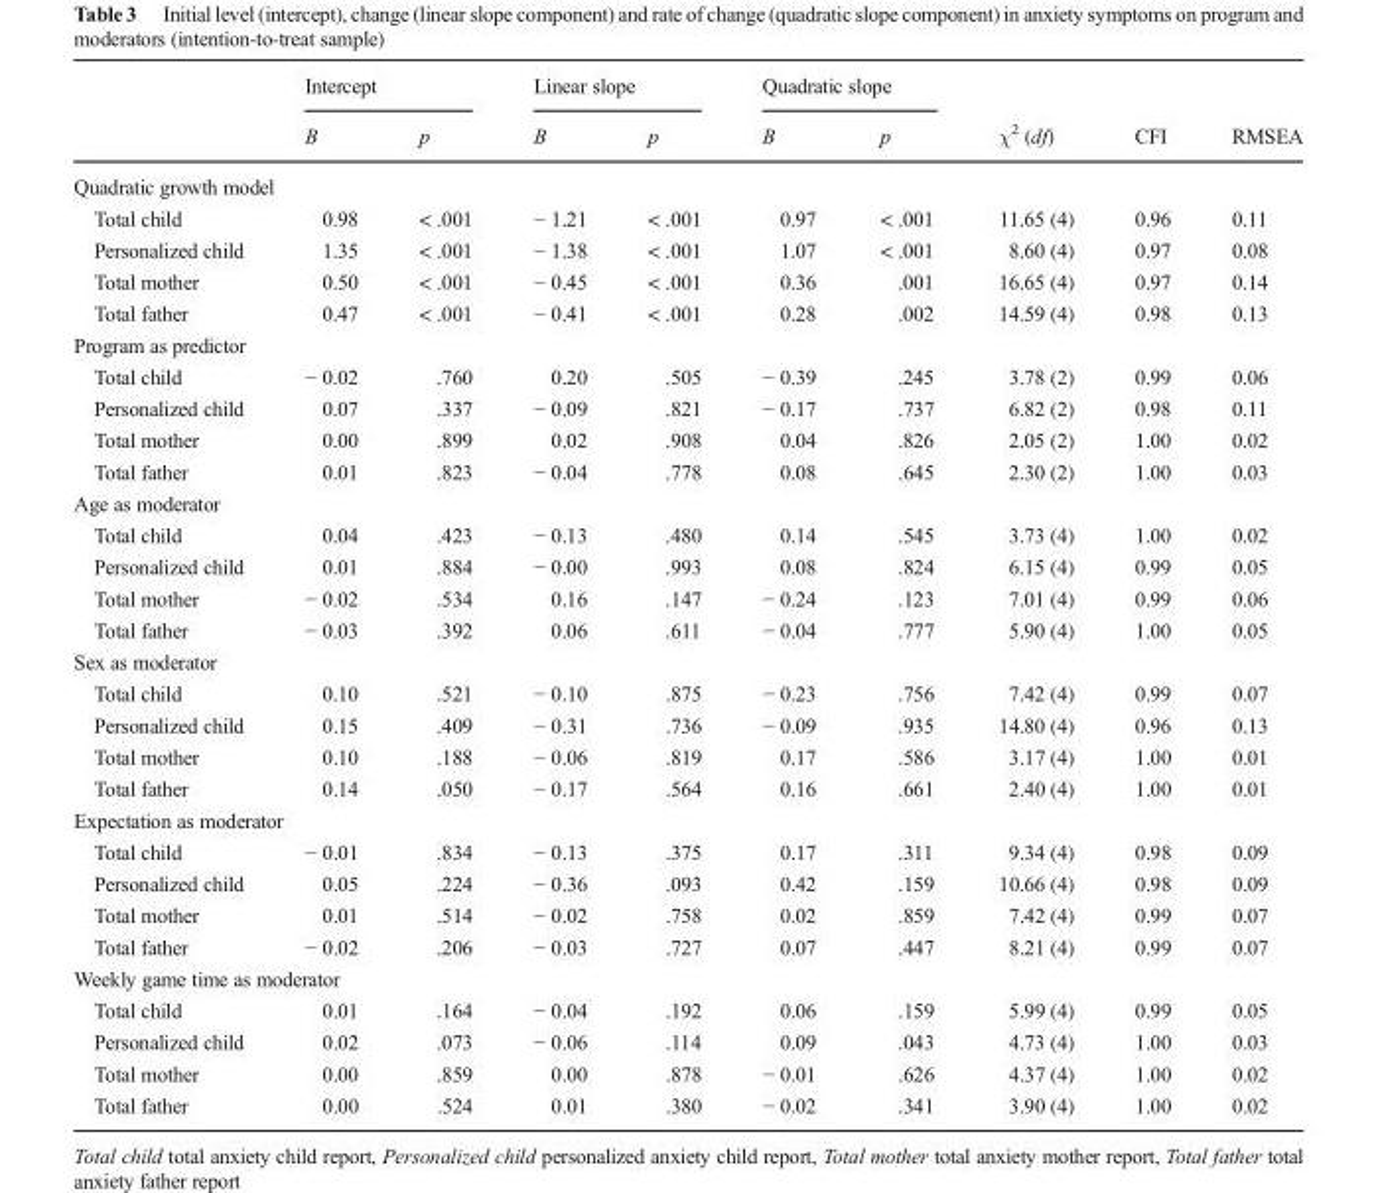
<table><thead><tr><td rowspan="2"></td><td colspan="2">Intercept</td><td colspan="2">Linear slope</td><td colspan="2">Quadratic slope</td><td rowspan="2">χ<sup>2</sup> (df)</td><td rowspan="2">CFI</td><td rowspan="2">RMSEA</td></tr><tr><td>B</td><td>p</td><td>B</td><td>p</td><td>B</td><td>p</td></tr></thead><tbody><tr><td colspan="10">Quadratic growth model</td></tr><tr><td>Total child</td><td>0.98</td><td>&lt; .001</td><td>− 1.21</td><td>&lt; .001</td><td>0.97</td><td>&lt; .001</td><td>11.65 (4)</td><td>0.96</td><td>0.11</td></tr><tr><td>Personalized child</td><td>1.35</td><td>&lt; .001</td><td>− 1.38</td><td>&lt; .001</td><td>1.07</td><td>&lt; .001</td><td>8.60 (4)</td><td>0.97</td><td>0.08</td></tr><tr><td>Total mother</td><td>0.50</td><td>&lt; .001</td><td>− 0.45</td><td>&lt; .001</td><td>0.36</td><td>.001</td><td>16.65 (4)</td><td>0.97</td><td>0.14</td></tr><tr><td>Total father</td><td>0.47</td><td>&lt; .001</td><td>− 0.41</td><td>&lt; .001</td><td>0.28</td><td>.002</td><td>14.59 (4)</td><td>0.98</td><td>0.13</td></tr><tr><td colspan="10">Program as predictor</td></tr><tr><td>Total child</td><td>− 0.02</td><td>.760</td><td>0.20</td><td>.505</td><td>− 0.39</td><td>.245</td><td>3.78 (2)</td><td>0.99</td><td>0.06</td></tr><tr><td>Personalized child</td><td>0.07</td><td>.337</td><td>− 0.09</td><td>.821</td><td>− 0.17</td><td>.737</td><td>6.82 (2)</td><td>0.98</td><td>0.11</td></tr><tr><td>Total mother</td><td>0.00</td><td>.899</td><td>0.02</td><td>.908</td><td>0.04</td><td>.826</td><td>2.05 (2)</td><td>1.00</td><td>0.02</td></tr><tr><td>Total father</td><td>0.01</td><td>.823</td><td>− 0.04</td><td>.778</td><td>0.08</td><td>.645</td><td>2.30 (2)</td><td>1.00</td><td>0.03</td></tr><tr><td colspan="10">Age as moderator</td></tr><tr><td>Total child</td><td>0.04</td><td>.423</td><td>− 0.13</td><td>.480</td><td>0.14</td><td>.545</td><td>3.73 (4)</td><td>1.00</td><td>0.02</td></tr><tr><td>Personalized child</td><td>0.01</td><td>.884</td><td>− 0.00</td><td>.993</td><td>0.08</td><td>.824</td><td>6.15 (4)</td><td>0.99</td><td>0.05</td></tr><tr><td>Total mother</td><td>− 0.02</td><td>.534</td><td>0.16</td><td>.147</td><td>− 0.24</td><td>.123</td><td>7.01 (4)</td><td>0.99</td><td>0.06</td></tr><tr><td>Total father</td><td>− 0.03</td><td>.392</td><td>0.06</td><td>.611</td><td>− 0.04</td><td>.777</td><td>5.90 (4)</td><td>1.00</td><td>0.05</td></tr><tr><td colspan="10">Sex as moderator</td></tr><tr><td>Total child</td><td>0.10</td><td>.521</td><td>− 0.10</td><td>.875</td><td>− 0.23</td><td>.756</td><td>7.42 (4)</td><td>0.99</td><td>0.07</td></tr><tr><td>Personalized child</td><td>0.15</td><td>.409</td><td>− 0.31</td><td>.736</td><td>− 0.09</td><td>.935</td><td>14.80 (4)</td><td>0.96</td><td>0.13</td></tr><tr><td>Total mother</td><td>0.10</td><td>.188</td><td>− 0.06</td><td>.819</td><td>0.17</td><td>.586</td><td>3.17 (4)</td><td>1.00</td><td>0.01</td></tr><tr><td>Total father</td><td>0.14</td><td>.050</td><td>− 0.17</td><td>.564</td><td>0.16</td><td>.661</td><td>2.40 (4)</td><td>1.00</td><td>0.01</td></tr><tr><td colspan="10">Expectation as moderator</td></tr><tr><td>Total child</td><td>− 0.01</td><td>.834</td><td>− 0.13</td><td>.375</td><td>0.17</td><td>.311</td><td>9.34 (4)</td><td>0.98</td><td>0.09</td></tr><tr><td>Personalized child</td><td>0.05</td><td>.224</td><td>− 0.36</td><td>.093</td><td>0.42</td><td>.159</td><td>10.66 (4)</td><td>0.98</td><td>0.09</td></tr><tr><td>Total mother</td><td>0.01</td><td>.514</td><td>− 0.02</td><td>.758</td><td>0.02</td><td>.859</td><td>7.42 (4)</td><td>0.99</td><td>0.07</td></tr><tr><td>Total father</td><td>− 0.02</td><td>.206</td><td>− 0.03</td><td>.727</td><td>0.07</td><td>.447</td><td>8.21 (4)</td><td>0.99</td><td>0.07</td></tr><tr><td colspan="10">Weekly game time as moderator</td></tr><tr><td>Total child</td><td>0.01</td><td>.164</td><td>− 0.04</td><td>.192</td><td>0.06</td><td>.159</td><td>5.99 (4)</td><td>0.99</td><td>0.05</td></tr><tr><td>Personalized child</td><td>0.02</td><td>.073</td><td>− 0.06</td><td>.114</td><td>0.09</td><td>.043</td><td>4.73 (4)</td><td>1.00</td><td>0.03</td></tr><tr><td>Total mother</td><td>0.00</td><td>.859</td><td>0.00</td><td>.878</td><td>− 0.01</td><td>.626</td><td>4.37 (4)</td><td>1.00</td><td>0.02</td></tr><tr><td>Total father</td><td>0.00</td><td>.524</td><td>0.01</td><td>.380</td><td>− 0.02</td><td>.341</td><td>3.90 (4)</td><td>1.00</td><td>0.02</td></tr></tbody></table>